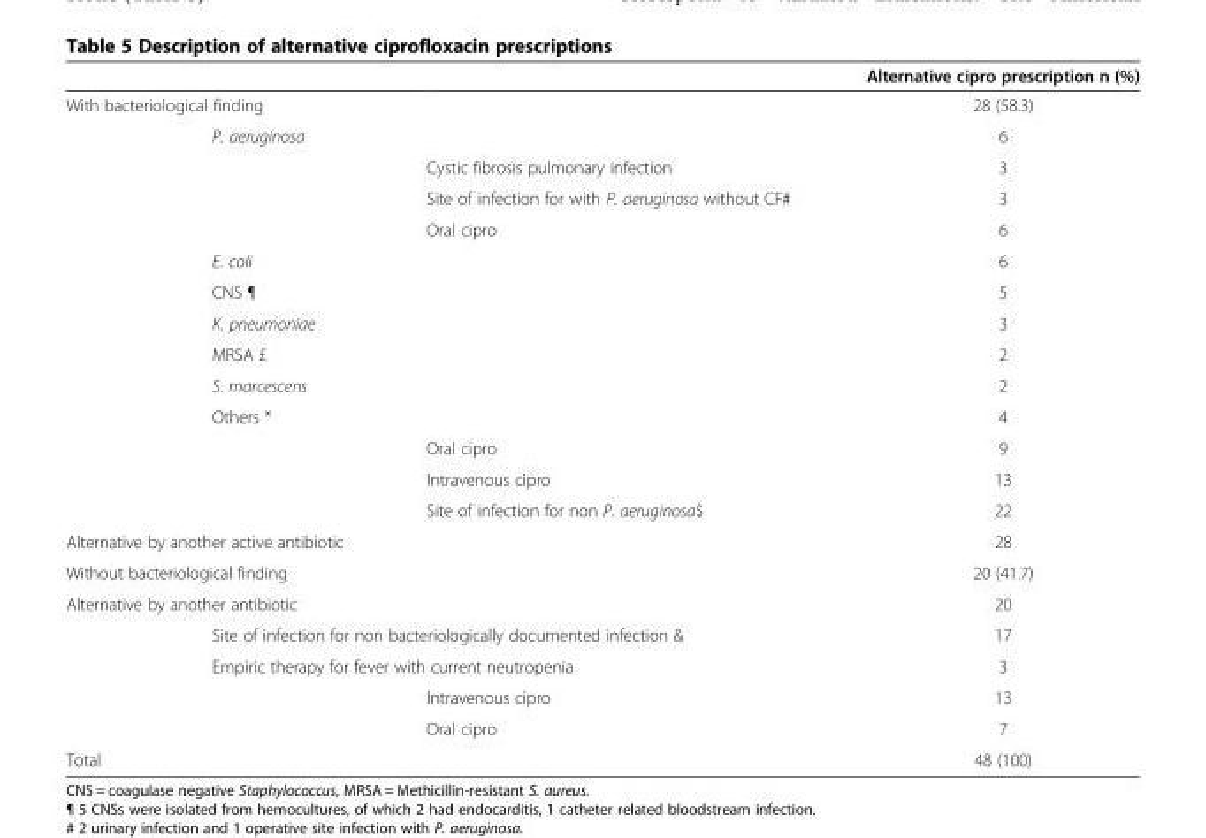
<table><thead><tr><td></td><td></td><td></td><td>Alternative cipro prescription n (%)</td></tr></thead><tbody><tr><td colspan="2">With bacteriological finding</td><td></td><td>28 (58.3)</td></tr><tr><td></td><td>P. aeruginosa</td><td></td><td>6</td></tr><tr><td></td><td></td><td>Cystic fibrosis pulmonary infection</td><td>3</td></tr><tr><td></td><td></td><td>Site of infection for with P. aeruginosa without CF#</td><td>3</td></tr><tr><td></td><td></td><td>Oral cipro</td><td>6</td></tr><tr><td></td><td>E. coli</td><td></td><td>6</td></tr><tr><td></td><td>CNS ¶</td><td></td><td>5</td></tr><tr><td></td><td>K. pneumoniae</td><td></td><td>3</td></tr><tr><td></td><td>MRSA £</td><td></td><td>2</td></tr><tr><td></td><td>S. marcescens</td><td></td><td>2</td></tr><tr><td></td><td>Others *</td><td></td><td>4</td></tr><tr><td></td><td></td><td>Oral cipro</td><td>9</td></tr><tr><td></td><td></td><td>Intravenous cipro</td><td>13</td></tr><tr><td></td><td></td><td>Site of infection for non P. aeruginosa$</td><td>22</td></tr><tr><td colspan="3">Alternative by another active antibiotic</td><td>28</td></tr><tr><td colspan="2">Without bacteriological finding</td><td></td><td>20 (41.7)</td></tr><tr><td colspan="3">Alternative by another antibiotic</td><td>20</td></tr><tr><td></td><td colspan="2">Site of infection for non bacteriologically documented infection &amp;</td><td>17</td></tr><tr><td></td><td colspan="2">Empiric therapy for fever with current neutropenia</td><td>3</td></tr><tr><td></td><td></td><td>Intravenous cipro</td><td>13</td></tr><tr><td></td><td></td><td>Oral cipro</td><td>7</td></tr><tr><td>Total</td><td></td><td></td><td>48 (100)</td></tr></tbody></table>